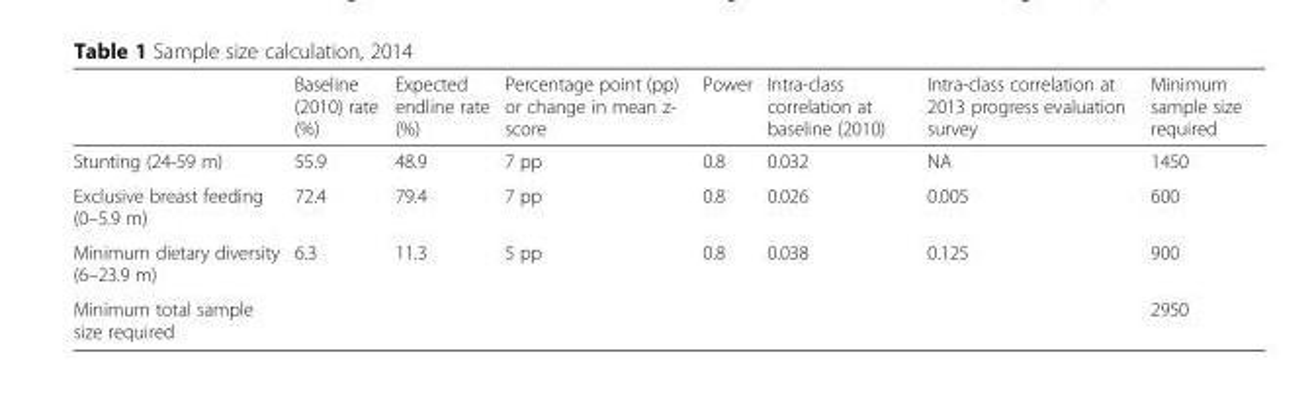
<table><thead><tr><td></td><td>Baseline (2010) rate (%)</td><td>Expected endline rate (%)</td><td>Percentage point (pp) or change in mean z- score</td><td>Power</td><td>Intra-class correlation at baseline (2010)</td><td>Intra-class correlation at 2013 progress evaluation survey</td><td>Minimum sample size required</td></tr></thead><tbody><tr><td>Stunting (24-59 m)</td><td>55.9</td><td>48.9</td><td>7 pp</td><td>0.8</td><td>0.032</td><td>NA</td><td>1450</td></tr><tr><td>Exclusive breast feeding (0–5.9 m)</td><td>72.4</td><td>79.4</td><td>7 pp</td><td>0.8</td><td>0.026</td><td>0.005</td><td>600</td></tr><tr><td>Minimum dietary diversity (6–23.9 m)</td><td>6.3</td><td>11.3</td><td>5 pp</td><td>0.8</td><td>0.038</td><td>0.125</td><td>900</td></tr><tr><td>Minimum total sample size required</td><td></td><td></td><td></td><td></td><td></td><td></td><td>2950</td></tr></tbody></table>